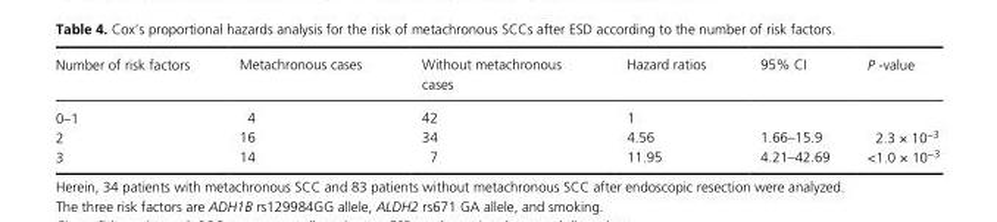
<table><thead><tr><td>Number of risk factors</td><td>Metachronous cases</td><td>Without metachronous cases</td><td>Hazard ratios</td><td>95% CI</td><td>P - value</td></tr></thead><tbody><tr><td>0–1</td><td>4</td><td>42</td><td>1</td><td></td><td></td></tr><tr><td>2</td><td>16</td><td>34</td><td>4.56</td><td>1.66–15.9</td><td>2.3 × 10<sup>−3</sup></td></tr><tr><td>3</td><td>14</td><td>7</td><td>11.95</td><td>4.21–42.69</td><td>&lt;1.0 × 10<sup>−3</sup></td></tr></tbody></table>